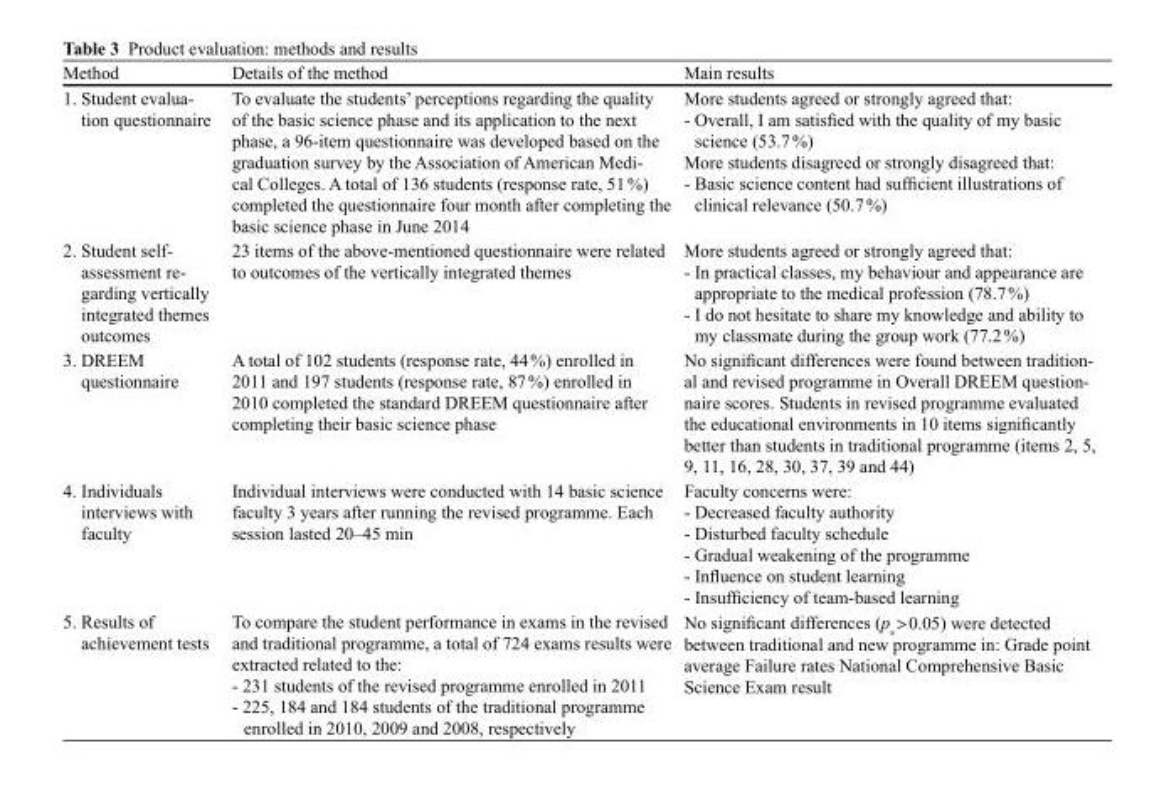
<table><thead><tr><td>Method</td><td>Details of the method</td><td>Main results</td></tr></thead><tbody><tr><td>1. Student evalua- tion questionnaire</td><td>To evaluate the students’ perceptions regarding the quality of the basic science phase and its application to the next phase, a 96-item questionnaire was developed based on the graduation survey by the Association of American Medi- cal Colleges. A total of 136 students (response rate, 51 %) completed the questionnaire four month after completing the basic science phase in June 2014</td><td>More students agreed or strongly agreed that: - Overall, I am satisfied with the quality of my basic science (53.7 %) More students disagreed or strongly disagreed that: - Basic science content had sufficient illustrations of clinical relevance (50.7 %)</td></tr><tr><td>2. Student self- assessment re- garding vertically integrated themes outcomes</td><td>23 items of the above-mentioned questionnaire were related to outcomes of the vertically integrated themes</td><td>More students agreed or strongly agreed that: - In practical classes, my behaviour and appearance are appropriate to the medical profession (78.7 %) - I do not hesitate to share my knowledge and ability to my classmate during the group work (77.2 %)</td></tr><tr><td>3. DREEM questionnaire</td><td>A total of 102 students (response rate, 44 %) enrolled in 2011 and 197 students (response rate, 87 %) enrolled in 2010 completed the standard DREEM questionnaire after completing their basic science phase</td><td>No significant differences were found between tradition- al and revised programme in Overall DREEM question- naire scores. Students in revised programme evaluated the educational environments in 10 items significantly better than students in traditional programme (items 2, 5, 9, 11, 16, 28, 30, 37, 39 and 44)</td></tr><tr><td>4. Individuals interviews with faculty</td><td>Individual interviews were conducted with 14 basic science faculty 3 years after running the revised programme. Each session lasted 20–45 min</td><td>Faculty concerns were: - Decreased faculty authority - Disturbed faculty schedule - Gradual weakening of the programme - Influence on student learning - Insufficiency of team-based learning</td></tr><tr><td>5. Results of achievement tests</td><td>To compare the student performance in exams in the revised and traditional programme, a total of 724 exams results were extracted related to the: - 231 students of the revised programme enrolled in 2011 - 225, 184 and 184 students of the traditional programme enrolled in 2010, 2009 and 2008, respectively</td><td>No significant differences (p<sub>s</sub> &gt; 0.05) were detected between traditional and new programme in: Grade point average Failure rates National Comprehensive Basic Science Exam result</td></tr></tbody></table>